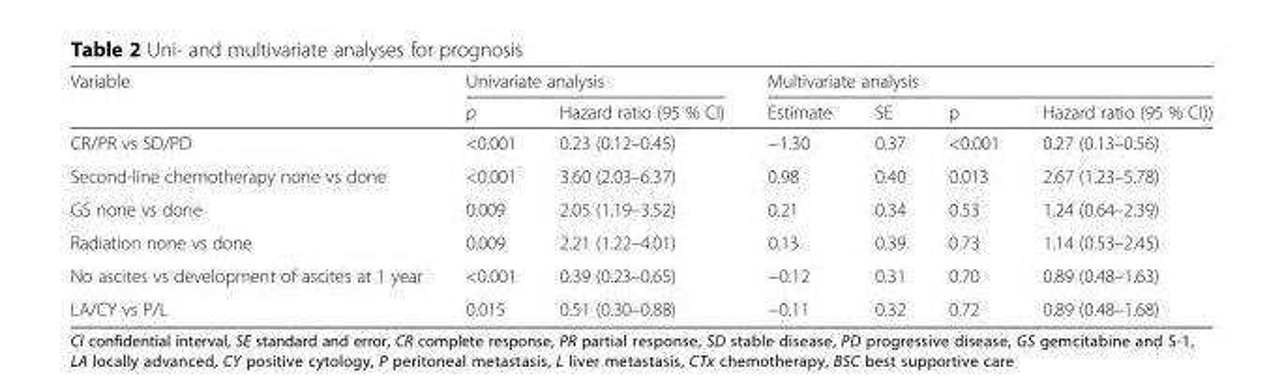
<table><thead><tr><td rowspan="2">Variable</td><td colspan="2">Univariate analysis</td><td colspan="4">Multivariate analysis</td></tr><tr><td>p</td><td>Hazard ratio (95 % CI)</td><td>Estimate</td><td>SE</td><td>p</td><td>Hazard ratio (95 % CI))</td></tr></thead><tbody><tr><td>CR/PR vs SD/PD</td><td>&lt;0.001</td><td>0.23 (0.12–0.45)</td><td>−1.30</td><td>0.37</td><td>&lt;0.001</td><td>0.27 (0.13–0.56)</td></tr><tr><td>Second-line chemotherapy none vs done</td><td>&lt;0.001</td><td>3.60 (2.03–6.37)</td><td>0.98</td><td>0.40</td><td>0.013</td><td>2.67 (1.23–5.78)</td></tr><tr><td>GS none vs done</td><td>0.009</td><td>2.05 (1.19–3.52)</td><td>0.21</td><td>0.34</td><td>0.53</td><td>1.24 (0.64–2.39)</td></tr><tr><td>Radiation none vs done</td><td>0.009</td><td>2.21 (1.22–4.01)</td><td>0.13</td><td>0.39</td><td>0.73</td><td>1.14 (0.53–2.45)</td></tr><tr><td>No ascites vs development of ascites at 1 year</td><td>&lt;0.001</td><td>0.39 (0.23–0.65)</td><td>−0.12</td><td>0.31</td><td>0.70</td><td>0.89 (0.48–1.63)</td></tr><tr><td>LA/CY vs P/L</td><td>0.015</td><td>0.51 (0.30–0.88)</td><td>−0.11</td><td>0.32</td><td>0.72</td><td>0.89 (0.48–1.68)</td></tr></tbody></table>